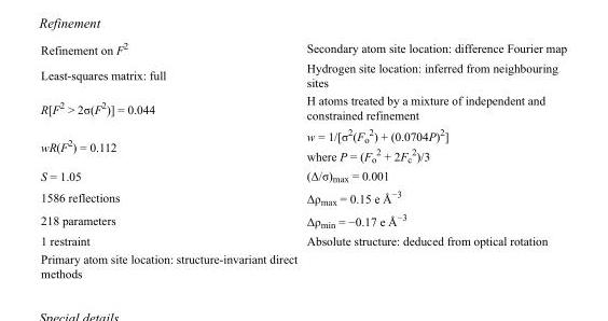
<table><tbody><tr><td>Refinement on F<sup>2</sup></td><td>Secondary atom site location: difference Fourier map</td></tr><tr><td>Least-squares matrix: full</td><td>Hydrogen site location: inferred from neighbouring sites</td></tr><tr><td>R[F<sup>2</sup> &gt; 2σ(F<sup>2</sup>)] = 0.044</td><td>H atoms treated by a mixture of independent and constrained refinement</td></tr><tr><td>wR(F<sup>2</sup>) = 0.112</td><td>w = 1/[σ<sup>2</sup>(F<sub>o</sub> <sup>2</sup>) + (0.0704P)<sup>2</sup>] where P = (F<sub>o</sub> <sup>2</sup> + 2F<sub>c</sub> <sup>2</sup>)/3</td></tr><tr><td>S = 1.05</td><td>(Δ/σ)<sub>max</sub> = 0.001</td></tr><tr><td>1586 reflections</td><td>Δρ<sub>max</sub> = 0.15 e Å<sup>−3</sup></td></tr><tr><td>218 parameters</td><td>Δρ<sub>min</sub> = −0.17 e Å<sup>−3</sup></td></tr><tr><td>1 restraint</td><td>Absolute structure: deduced from optical rotation</td></tr><tr><td>Primary atom site location: structure-invariant direct methods</td><td></td></tr></tbody></table>